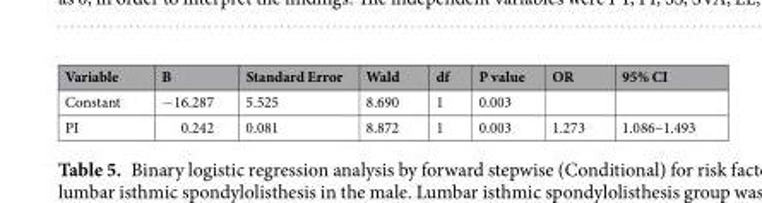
<table><thead><tr><td>Variable</td><td>B</td><td>Standard Error</td><td>Wald</td><td>df</td><td>P value</td><td>OR</td><td>95% CI</td></tr></thead><tbody><tr><td>Constant</td><td>−16.287</td><td>5.525</td><td>8.690</td><td>1</td><td>0.003</td><td></td><td></td></tr><tr><td>PI</td><td>0.242</td><td>0.081</td><td>8.872</td><td>1</td><td>0.003</td><td>1.273</td><td>1.086–1.493</td></tr></tbody></table>